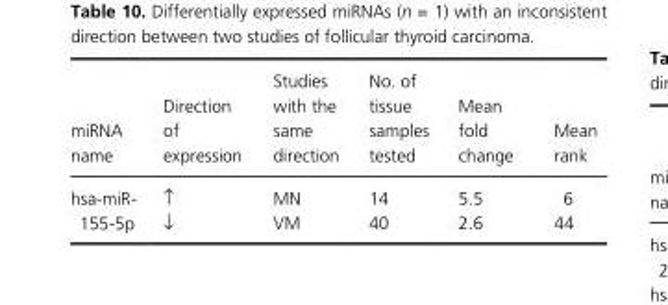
<table><thead><tr><td>miRNA name</td><td>Direction of expression</td><td>Studies with the same direction</td><td>No. of tissue samples tested</td><td>Mean fold change</td><td>Mean rank</td></tr></thead><tbody><tr><td rowspan="2">hsa- miR- 155- 5p</td><td>↑</td><td>MN</td><td>14</td><td>5.5</td><td>6</td></tr><tr><td>↓</td><td>VM</td><td>40</td><td>2.6</td><td>44</td></tr></tbody></table>